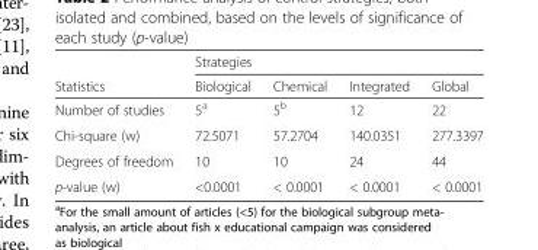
<table><thead><tr><td rowspan="2">Statistics</td><td colspan="4">Strategies</td></tr><tr><td>Biological</td><td>Chemical</td><td>Integrated</td><td>Global</td></tr></thead><tbody><tr><td>Number of studies</td><td>5<sup>a</sup></td><td>5<sup>b</sup></td><td>12</td><td>22</td></tr><tr><td>Chi-square (w)</td><td>72.5071</td><td>57.2704</td><td>140.0351</td><td>277.3397</td></tr><tr><td>Degrees of freedom</td><td>10</td><td>10</td><td>24</td><td>44</td></tr><tr><td>p-value (w)</td><td>&lt;0.0001</td><td>&lt; 0.0001</td><td>&lt; 0.0001</td><td>&lt; 0.0001</td></tr></tbody></table>